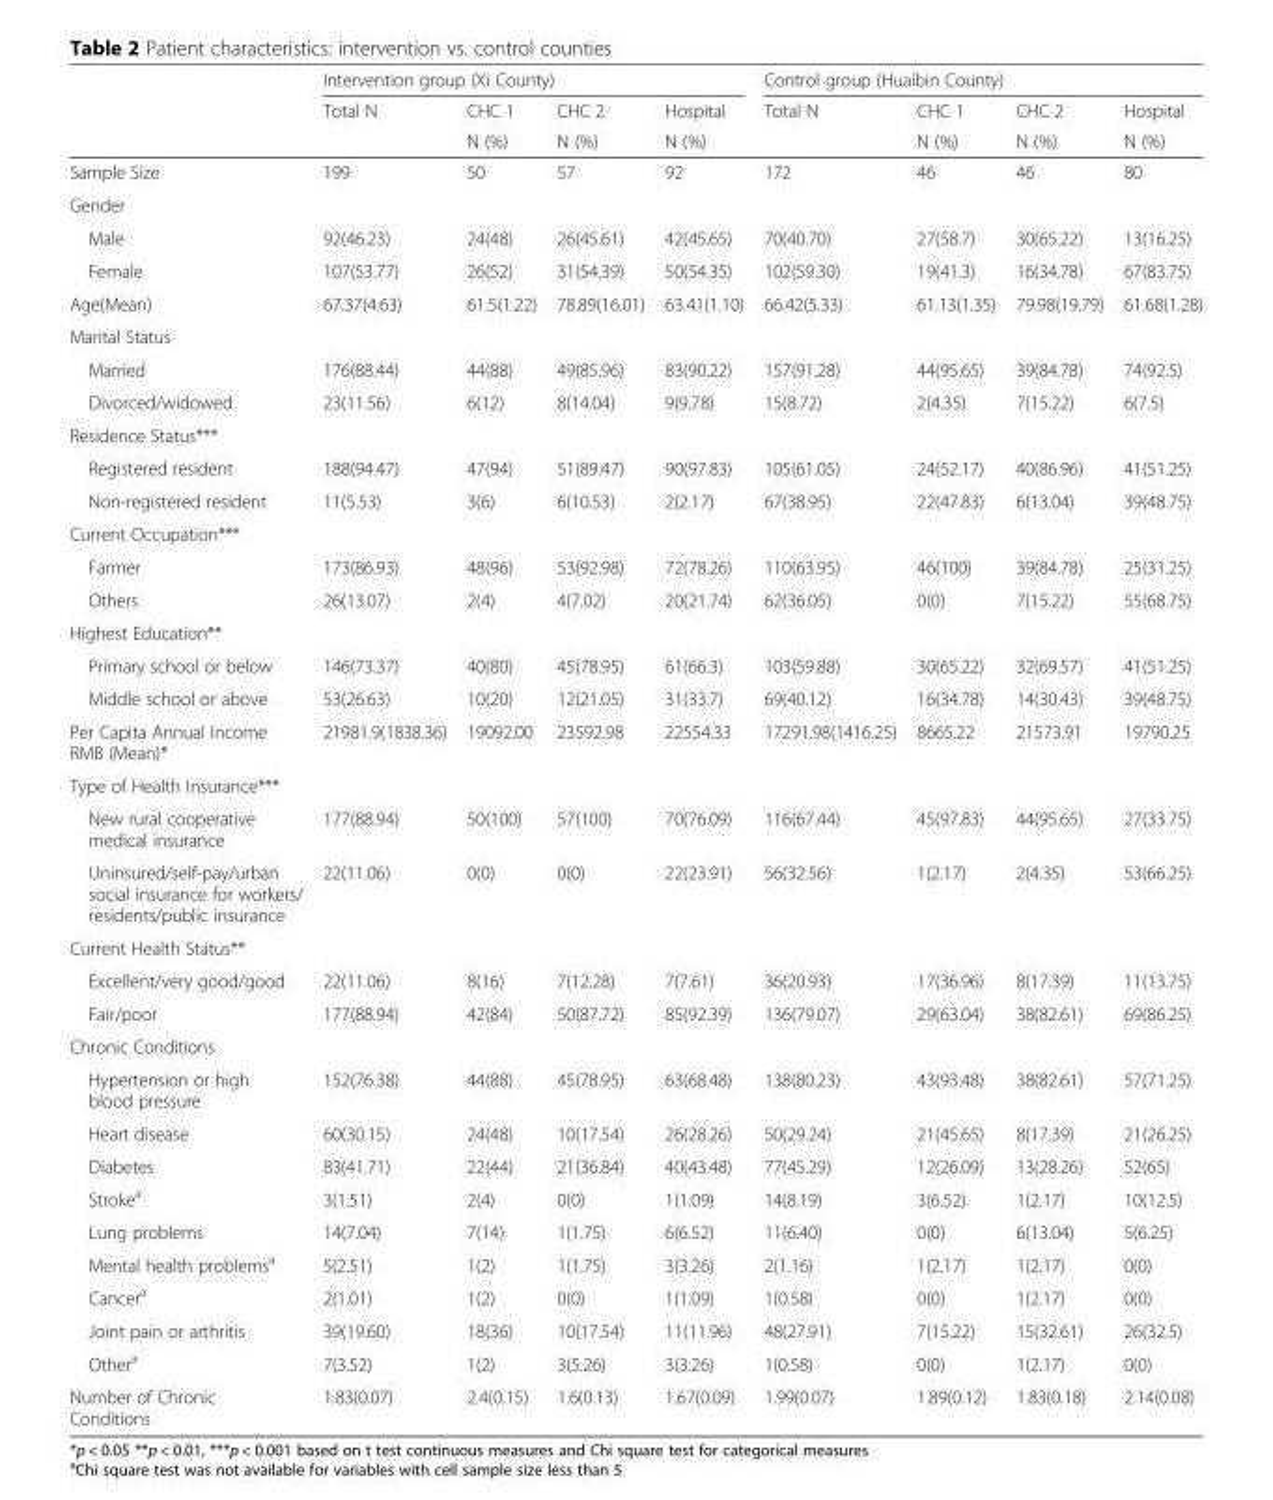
<table><thead><tr><td rowspan="3"></td><td colspan="4">Intervention group (Xi County)</td><td colspan="4">Control group (Huaibin County)</td></tr><tr><td rowspan="2">Total N</td><td rowspan="2">CHC 1 N (%)</td><td rowspan="2">CHC 2 N (%)</td><td rowspan="2">Hospital N (%)</td><td rowspan="2">Total N</td><td rowspan="2">CHC 1 N (%)</td><td rowspan="2">CHC 2 N (%)</td><td rowspan="2">Hospital N (%)</td></tr><tr></tr></thead><tbody><tr><td>Sample Size</td><td>199</td><td>50</td><td>57</td><td>92</td><td>172</td><td>46</td><td>46</td><td>80</td></tr><tr><td colspan="9">Gender</td></tr><tr><td>Male</td><td>92(46.23)</td><td>24(48)</td><td>26(45.61)</td><td>42(45.65)</td><td>70(40.70)</td><td>27(58.7)</td><td>30(65.22)</td><td>13(16.25)</td></tr><tr><td>Female</td><td>107(53.77)</td><td>26(52)</td><td>31(54.39)</td><td>50(54.35)</td><td>102(59.30)</td><td>19(41.3)</td><td>16(34.78)</td><td>67(83.75)</td></tr><tr><td>Age(Mean)</td><td>67.37(4.63)</td><td>61.5(1.22)</td><td>78.89(16.01)</td><td>63.41(1.10)</td><td>66.42(5.33)</td><td>61.13(1.35)</td><td>79.98(19.79)</td><td>61.68(1.28)</td></tr><tr><td colspan="9">Marital Status</td></tr><tr><td>Married</td><td>176(88.44)</td><td>44(88)</td><td>49(85.96)</td><td>83(90.22)</td><td>157(91.28)</td><td>44(95.65)</td><td>39(84.78)</td><td>74(92.5)</td></tr><tr><td>Divorced/widowed</td><td>23(11.56)</td><td>6(12)</td><td>8(14.04)</td><td>9(9.78)</td><td>15(8.72)</td><td>2(4.35)</td><td>7(15.22)</td><td>6(7.5)</td></tr><tr><td colspan="9">Residence Status***</td></tr><tr><td>Registered resident</td><td>188(94.47)</td><td>47(94)</td><td>51(89.47)</td><td>90(97.83)</td><td>105(61.05)</td><td>24(52.17)</td><td>40(86.96)</td><td>41(51.25)</td></tr><tr><td>Non-registered resident</td><td>11(5.53)</td><td>3(6)</td><td>6(10.53)</td><td>2(2.17)</td><td>67(38.95)</td><td>22(47.83)</td><td>6(13.04)</td><td>39(48.75)</td></tr><tr><td colspan="9">Current Occupation***</td></tr><tr><td>Farmer</td><td>173(86.93)</td><td>48(96)</td><td>53(92.98)</td><td>72(78.26)</td><td>110(63.95)</td><td>46(100)</td><td>39(84.78)</td><td>25(31.25)</td></tr><tr><td>Others</td><td>26(13.07)</td><td>2(4)</td><td>4(7.02)</td><td>20(21.74)</td><td>62(36.05)</td><td>0(0)</td><td>7(15.22)</td><td>55(68.75)</td></tr><tr><td colspan="9">Highest Education**</td></tr><tr><td>Primary school or below</td><td>146(73.37)</td><td>40(80)</td><td>45(78.95)</td><td>61(66.3)</td><td>103(59.88)</td><td>30(65.22)</td><td>32(69.57)</td><td>41(51.25)</td></tr><tr><td>Middle school or above</td><td>53(26.63)</td><td>10(20)</td><td>12(21.05)</td><td>31(33.7)</td><td>69(40.12)</td><td>16(34.78)</td><td>14(30.43)</td><td>39(48.75)</td></tr><tr><td>Per Capita Annual Income RMB (Mean)*</td><td>21981.9(1838.36)</td><td>19092.00</td><td>23592.98</td><td>22554.33</td><td>17291.98(1416.25)</td><td>8665.22</td><td>21573.91</td><td>19790.25</td></tr><tr><td colspan="9">Type of Health Insurance***</td></tr><tr><td>New rural cooperative medical insurance</td><td>177(88.94)</td><td>50(100)</td><td>57(100)</td><td>70(76.09)</td><td>116(67.44)</td><td>45(97.83)</td><td>44(95.65)</td><td>27(33.75)</td></tr><tr><td>Uninsured/self-pay/urban social insurance for workers/ residents/public insurance</td><td>22(11.06)</td><td>0(0)</td><td>0(0)</td><td>22(23.91)</td><td>56(32.56)</td><td>1(2.17)</td><td>2(4.35)</td><td>53(66.25)</td></tr><tr><td colspan="9">Current Health Status**</td></tr><tr><td>Excellent/very good/good</td><td>22(11.06)</td><td>8(16)</td><td>7(12.28)</td><td>7(7.61)</td><td>36(20.93)</td><td>17(36.96)</td><td>8(17.39)</td><td>11(13.75)</td></tr><tr><td>Fair/poor</td><td>177(88.94)</td><td>42(84)</td><td>50(87.72)</td><td>85(92.39)</td><td>136(79.07)</td><td>29(63.04)</td><td>38(82.61)</td><td>69(86.25)</td></tr><tr><td colspan="9">Chronic Conditions</td></tr><tr><td>Hypertension or high blood pressure</td><td>152(76.38)</td><td>44(88)</td><td>45(78.95)</td><td>63(68.48)</td><td>138(80.23)</td><td>43(93.48)</td><td>38(82.61)</td><td>57(71.25)</td></tr><tr><td>Heart disease</td><td>60(30.15)</td><td>24(48)</td><td>10(17.54)</td><td>26(28.26)</td><td>50(29.24)</td><td>21(45.65)</td><td>8(17.39)</td><td>21(26.25)</td></tr><tr><td>Diabetes</td><td>83(41.71)</td><td>22(44)</td><td>21(36.84)</td><td>40(43.48)</td><td>77(45.29)</td><td>12(26.09)</td><td>13(28.26)</td><td>52(65)</td></tr><tr><td>Stroke<sup>a</sup></td><td>3(1.51)</td><td>2(4)</td><td>0(0)</td><td>1(1.09)</td><td>14(8.19)</td><td>3(6.52)</td><td>1(2.17)</td><td>10(12.5)</td></tr><tr><td>Lung problems</td><td>14(7.04)</td><td>7(14)</td><td>1(1.75)</td><td>6(6.52)</td><td>11(6.40)</td><td>0(0)</td><td>6(13.04)</td><td>5(6.25)</td></tr><tr><td>Mental health problems<sup>a</sup></td><td>5(2.51)</td><td>1(2)</td><td>1(1.75)</td><td>3(3.26)</td><td>2(1.16)</td><td>1(2.17)</td><td>1(2.17)</td><td>0(0)</td></tr><tr><td>Cancer<sup>a</sup></td><td>2(1.01)</td><td>1(2)</td><td>0(0)</td><td>1(1.09)</td><td>1(0.58)</td><td>0(0)</td><td>1(2.17)</td><td>0(0)</td></tr><tr><td>Joint pain or arthritis</td><td>39(19.60)</td><td>18(36)</td><td>10(17.54)</td><td>11(11.96)</td><td>48(27.91)</td><td>7(15.22)</td><td>15(32.61)</td><td>26(32.5)</td></tr><tr><td>Other<sup>a</sup></td><td>7(3.52)</td><td>1(2)</td><td>3(5.26)</td><td>3(3.26)</td><td>1(0.58)</td><td>0(0)</td><td>1(2.17)</td><td>0(0)</td></tr><tr><td>Number of Chronic Conditions</td><td>1.83(0.07)</td><td>2.4(0.15)</td><td>1.6(0.13)</td><td>1.67(0.09)</td><td>1.99(0.07)</td><td>1.89(0.12)</td><td>1.83(0.18)</td><td>2.14(0.08)</td></tr></tbody></table>